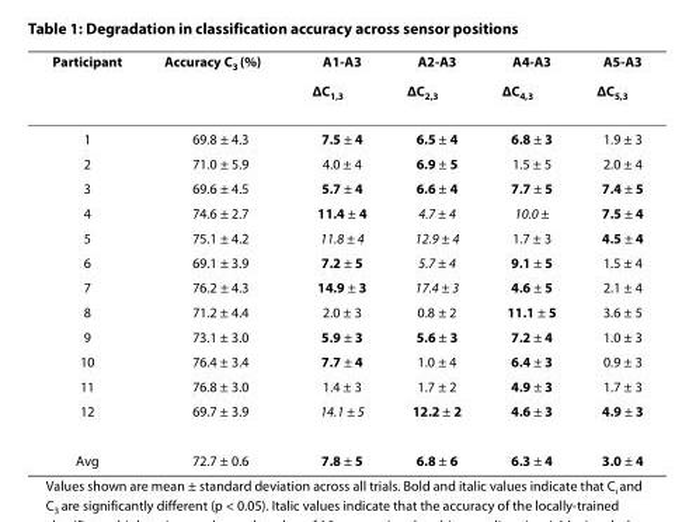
<table><thead><tr><td rowspan="2">Participant</td><td rowspan="2">Accuracy C<sub>3</sub> (%)</td><td rowspan="2">A1-A3 ΔC<sub>1,3</sub></td><td rowspan="2">A2-A3 ΔC<sub>2,3</sub></td><td rowspan="2">A4-A3 ΔC<sub>4,3</sub></td><td rowspan="2">A5-A3 ΔC<sub>5,3</sub></td></tr><tr></tr></thead><tbody><tr><td>1</td><td>69.8 ± 4.3</td><td>7.5 ± 4</td><td>6.5 ± 4</td><td>6.8 ± 3</td><td>1.9 ± 3</td></tr><tr><td>2</td><td>71.0 ± 5.9</td><td>4.0 ± 4</td><td>6.9 ± 5</td><td>1.5 ± 5</td><td>2.0 ± 4</td></tr><tr><td>3</td><td>69.6 ± 4.5</td><td>5.7 ± 4</td><td>6.6 ± 4</td><td>7.7 ± 5</td><td>7.4 ± 5</td></tr><tr><td>4</td><td>74.6 ± 2.7</td><td>11.4 ± 4</td><td>4.7 ± 4</td><td>10.0 ±</td><td>7.5 ± 4</td></tr><tr><td>5</td><td>75.1 ± 4.2</td><td>11.8 ± 4</td><td>12.9 ± 4</td><td>1.7 ± 3</td><td>4.5 ± 4</td></tr><tr><td>6</td><td>69.1 ± 3.9</td><td>7.2 ± 5</td><td>5.7 ± 4</td><td>9.1 ± 5</td><td>1.5 ± 4</td></tr><tr><td>7</td><td>76.2 ± 4.3</td><td>14.9 ± 3</td><td>17.4 ± 3</td><td>4.6 ± 5</td><td>2.1 ± 4</td></tr><tr><td>8</td><td>71.2 ± 4.4</td><td>2.0 ± 3</td><td>0.8 ± 2</td><td>11.1 ± 5</td><td>3.6 ± 5</td></tr><tr><td>9</td><td>73.1 ± 3.0</td><td>5.9 ± 3</td><td>5.6 ± 3</td><td>7.2 ± 4</td><td>1.0 ± 3</td></tr><tr><td>10</td><td>76.4 ± 3.4</td><td>7.7 ± 4</td><td>1.0 ± 4</td><td>6.4 ± 3</td><td>0.9 ± 3</td></tr><tr><td>11</td><td>76.8 ± 3.0</td><td>1.4 ± 3</td><td>1.7 ± 2</td><td>4.9 ± 3</td><td>1.7 ± 3</td></tr><tr><td>12</td><td>69.7 ± 3.9</td><td>14.1 ± 5</td><td>12.2 ± 2</td><td>4.6 ± 3</td><td>4.9 ± 3</td></tr><tr><td>Avg</td><td>72.7 ± 0.6</td><td>7.8 ± 5</td><td>6.8 ± 6</td><td>6.3 ± 4</td><td>3.0 ± 4</td></tr></tbody></table>